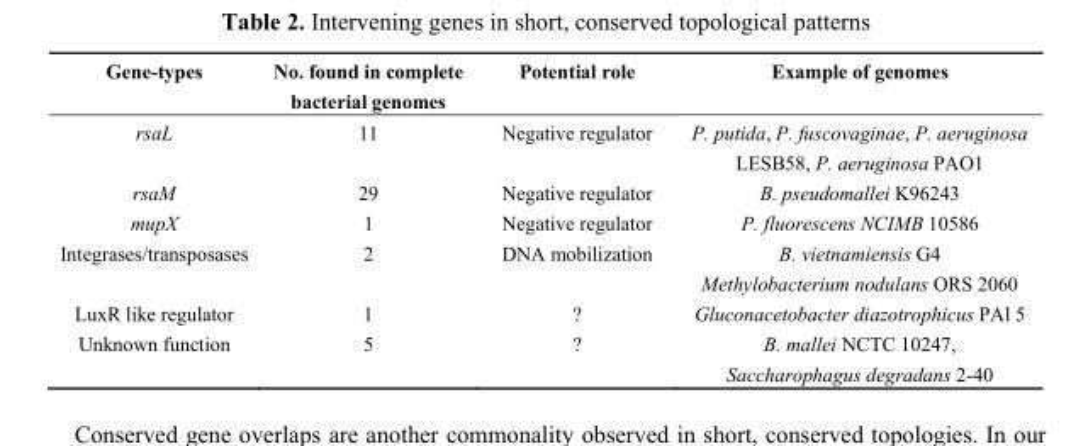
<table><thead><tr><td>Gene-types</td><td>No. found in complete bacterial genomes</td><td>Potential role</td><td>Example of genomes</td></tr></thead><tbody><tr><td>rsaL</td><td>11</td><td>Negative regulator</td><td>P. putida, P. fuscovaginae, P. aeruginosa LESB58, P. aeruginosa PAO1</td></tr><tr><td>rsaM</td><td>29</td><td>Negative regulator</td><td>B. pseudomallei K96243</td></tr><tr><td>mupX</td><td>1</td><td>Negative regulator</td><td>P. fluorescens NCIMB 10586</td></tr><tr><td>Integrases/transposases</td><td>2</td><td>DNA mobilization</td><td>B. vietnamiensis G4 Methylobacterium nodulans ORS 2060</td></tr><tr><td>LuxR like regulator</td><td>1</td><td>?</td><td>Gluconacetobacter diazotrophicus PAl 5</td></tr><tr><td>Unknown function</td><td>5</td><td>?</td><td>B. mallei NCTC 10247, Saccharophagus degradans 2-40</td></tr></tbody></table>